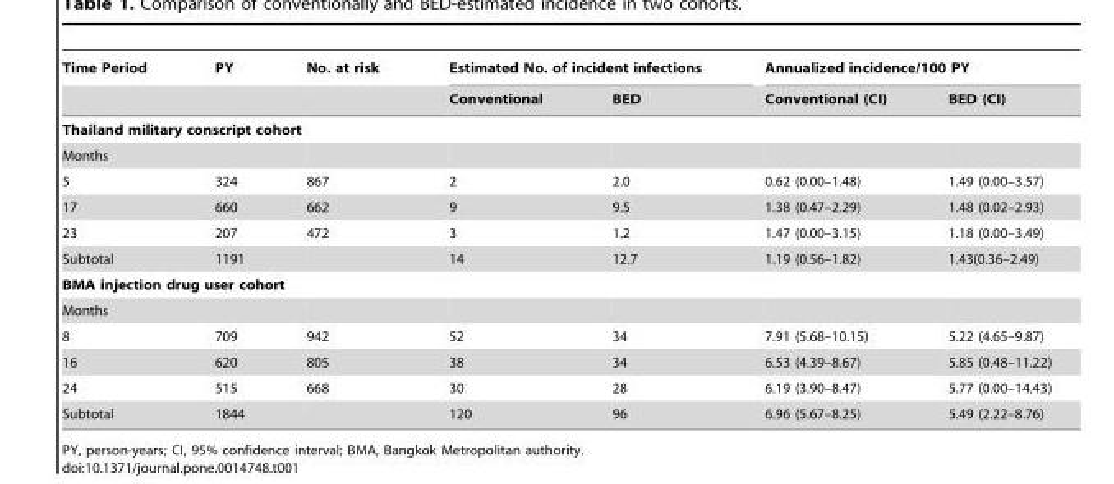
<table><thead><tr><td rowspan="2">Time Period</td><td rowspan="2">PY</td><td rowspan="2">No. at risk</td><td colspan="2">Estimated No. of incident infections</td><td colspan="2">Annualized incidence/100 PY</td></tr><tr><td>Conventional</td><td>BED</td><td>Conventional (CI)</td><td>BED (CI)</td></tr></thead><tbody><tr><td colspan="7">Thailand military conscript cohort</td></tr><tr><td colspan="7">Months</td></tr><tr><td>5</td><td>324</td><td>867</td><td>2</td><td>2.0</td><td>0.62 (0.00–1.48)</td><td>1.49 (0.00–3.57)</td></tr><tr><td>17</td><td>660</td><td>662</td><td>9</td><td>9.5</td><td>1.38 (0.47–2.29)</td><td>1.48 (0.02–2.93)</td></tr><tr><td>23</td><td>207</td><td>472</td><td>3</td><td>1.2</td><td>1.47 (0.00–3.15)</td><td>1.18 (0.00–3.49)</td></tr><tr><td>Subtotal</td><td>1191</td><td></td><td>14</td><td>12.7</td><td>1.19 (0.56–1.82)</td><td>1.43(0.36–2.49)</td></tr><tr><td colspan="7">BMA injection drug user cohort</td></tr><tr><td colspan="7">Months</td></tr><tr><td>8</td><td>709</td><td>942</td><td>52</td><td>34</td><td>7.91 (5.68–10.15)</td><td>5.22 (4.65–9.87)</td></tr><tr><td>16</td><td>620</td><td>805</td><td>38</td><td>34</td><td>6.53 (4.39–8.67)</td><td>5.85 (0.48–11.22)</td></tr><tr><td>24</td><td>515</td><td>668</td><td>30</td><td>28</td><td>6.19 (3.90–8.47)</td><td>5.77 (0.00–14.43)</td></tr><tr><td>Subtotal</td><td>1844</td><td></td><td>120</td><td>96</td><td>6.96 (5.67–8.25)</td><td>5.49 (2.22–8.76)</td></tr></tbody></table>